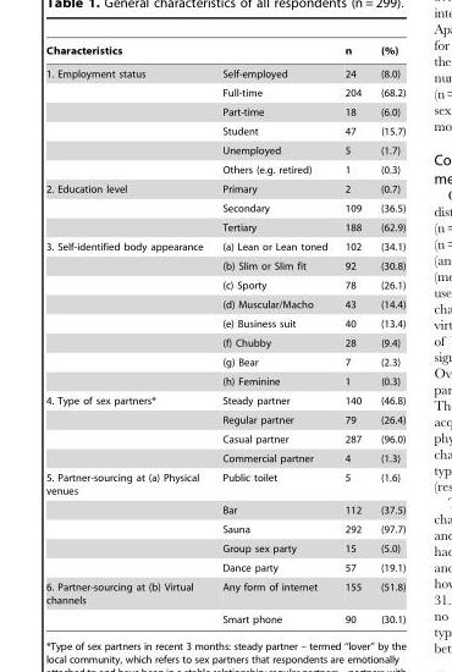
<table><thead><tr><td colspan="2">Characteristics</td><td rowspan="2">n 24</td><td rowspan="2">(%) (8.0)</td></tr><tr><td>1. Employment status</td><td>Self-employed</td></tr></thead><tbody><tr><td></td><td>Full-time</td><td>204</td><td>(68.2)</td></tr><tr><td></td><td>Part-time</td><td>18</td><td>(6.0)</td></tr><tr><td></td><td>Student</td><td>47</td><td>(15.7)</td></tr><tr><td></td><td>Unemployed</td><td>5</td><td>(1.7)</td></tr><tr><td></td><td>Others (e.g. retired)</td><td>1</td><td>(0.3)</td></tr><tr><td rowspan="3">2. Education level</td><td>Primary</td><td>2</td><td>(0.7)</td></tr><tr><td>Secondary</td><td>109</td><td>(36.5)</td></tr><tr><td>Tertiary</td><td>188</td><td>(62.9)</td></tr><tr><td rowspan="8">3. Self-identified body appearance</td><td>(a) Lean or Lean toned</td><td>102</td><td>(34.1)</td></tr><tr><td>(b) Slim or Slim fit</td><td>92</td><td>(30.8)</td></tr><tr><td>(c) Sporty</td><td>78</td><td>(26.1)</td></tr><tr><td>(d) Muscular/Macho</td><td>43</td><td>(14.4)</td></tr><tr><td>(e) Business suit</td><td>40</td><td>(13.4)</td></tr><tr><td>(f) Chubby</td><td>28</td><td>(9.4)</td></tr><tr><td>(g) Bear</td><td>7</td><td>(2.3)</td></tr><tr><td>(h) Feminine</td><td>1</td><td>(0.3)</td></tr><tr><td rowspan="4">4. Type of sex partners*</td><td>Steady partner</td><td>140</td><td>(46.8)</td></tr><tr><td>Regular partner</td><td>79</td><td>(26.4)</td></tr><tr><td>Casual partner</td><td>287</td><td>(96.0)</td></tr><tr><td>Commercial partner</td><td>4</td><td>(1.3)</td></tr><tr><td rowspan="5">5. Partner-sourcing at (a) Physical venues</td><td>Public toilet</td><td>5</td><td>(1.6)</td></tr><tr><td>Bar</td><td>112</td><td>(37.5)</td></tr><tr><td>Sauna</td><td>292</td><td>(97.7)</td></tr><tr><td>Group sex party</td><td>15</td><td>(5.0)</td></tr><tr><td>Dance party</td><td>57</td><td>(19.1)</td></tr><tr><td rowspan="2">6. Partner-sourcing at (b) Virtual channels</td><td>Any form of internet</td><td>155</td><td>(51.8)</td></tr><tr><td>Smart phone</td><td>90</td><td>(30.1)</td></tr></tbody></table>